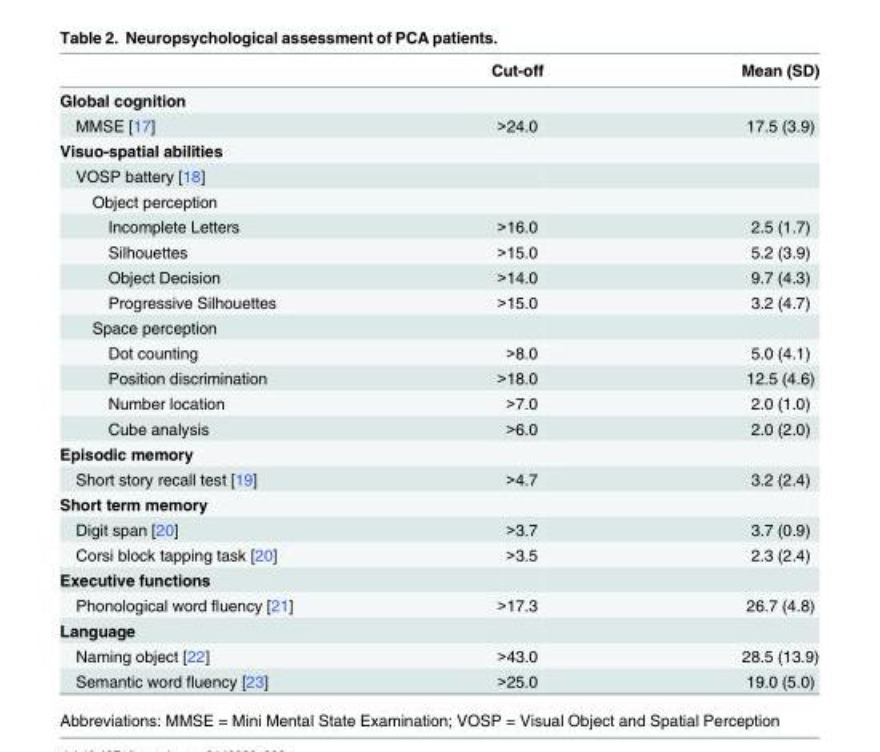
<table><thead><tr><td></td><td>Cut-off</td><td>Mean (SD)</td></tr></thead><tbody><tr><td colspan="3">Global cognition</td></tr><tr><td>MMSE [17]</td><td>&gt;24.0</td><td>17.5 (3.9)</td></tr><tr><td colspan="3">Visuo-spatial abilities</td></tr><tr><td colspan="3">VOSP battery [18]</td></tr><tr><td colspan="3">Object perception</td></tr><tr><td>Incomplete Letters</td><td>&gt;16.0</td><td>2.5 (1.7)</td></tr><tr><td>Silhouettes</td><td>&gt;15.0</td><td>5.2 (3.9)</td></tr><tr><td>Object Decision</td><td>&gt;14.0</td><td>9.7 (4.3)</td></tr><tr><td>Progressive Silhouettes</td><td>&gt;15.0</td><td>3.2 (4.7)</td></tr><tr><td colspan="3">Space perception</td></tr><tr><td>Dot counting</td><td>&gt;8.0</td><td>5.0 (4.1)</td></tr><tr><td>Position discrimination</td><td>&gt;18.0</td><td>12.5 (4.6)</td></tr><tr><td>Number location</td><td>&gt;7.0</td><td>2.0 (1.0)</td></tr><tr><td>Cube analysis</td><td>&gt;6.0</td><td>2.0 (2.0)</td></tr><tr><td colspan="3">Episodic memory</td></tr><tr><td>Short story recall test [19]</td><td>&gt;4.7</td><td>3.2 (2.4)</td></tr><tr><td colspan="3">Short term memory</td></tr><tr><td>Digit span [20]</td><td>&gt;3.7</td><td>3.7 (0.9)</td></tr><tr><td>Corsi block tapping task [20]</td><td>&gt;3.5</td><td>2.3 (2.4)</td></tr><tr><td colspan="3">Executive functions</td></tr><tr><td>Phonological word fluency [21]</td><td>&gt;17.3</td><td>26.7 (4.8)</td></tr><tr><td colspan="3">Language</td></tr><tr><td>Naming object [22]</td><td>&gt;43.0</td><td>28.5 (13.9)</td></tr><tr><td>Semantic word fluency [23]</td><td>&gt;25.0</td><td>19.0 (5.0)</td></tr></tbody></table>